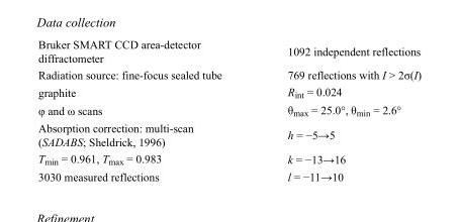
<table><tbody><tr><td>Bruker SMART CCD area-detector diffractometer</td><td>1092 independent reflections</td></tr><tr><td>Radiation source: fine-focus sealed tube</td><td>769 reflections with I &gt; 2σ(I)</td></tr><tr><td>graphite</td><td>R<sub>int</sub> = 0.024</td></tr><tr><td>φ and ω scans</td><td>θ<sub>max</sub> = 25.0°, θ<sub>min</sub> = 2.6°</td></tr><tr><td>Absorption correction: multi-scan (SADABS; Sheldrick, 1996)</td><td>h = −5→5</td></tr><tr><td>T<sub>min</sub> = 0.961, T<sub>max</sub> = 0.983</td><td>k = −13→16</td></tr><tr><td>3030 measured reflections</td><td>l = −11→10</td></tr></tbody></table>